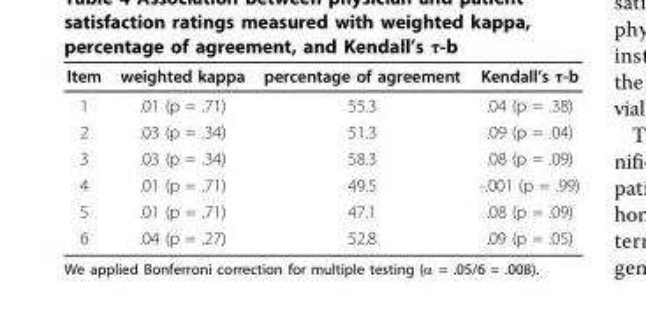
<table><thead><tr><td>Item</td><td>weighted kappa</td><td>percentage of agreement</td><td>Kendall’s τ-b</td></tr></thead><tbody><tr><td>1</td><td>.01 (p = .71)</td><td>55.3</td><td>.04 (p = .38)</td></tr><tr><td>2</td><td>.03 (p = .34)</td><td>51.3</td><td>.09 (p = .04)</td></tr><tr><td>3</td><td>.03 (p = .34)</td><td>58.3</td><td>.08 (p = .09)</td></tr><tr><td>4</td><td>.01 (p = .71)</td><td>49.5</td><td>-.001 (p = .99)</td></tr><tr><td>5</td><td>.01 (p = .71)</td><td>47.1</td><td>.08 (p = .09)</td></tr><tr><td>6</td><td>.04 (p = .27)</td><td>52.8</td><td>.09 (p = .05)</td></tr></tbody></table>